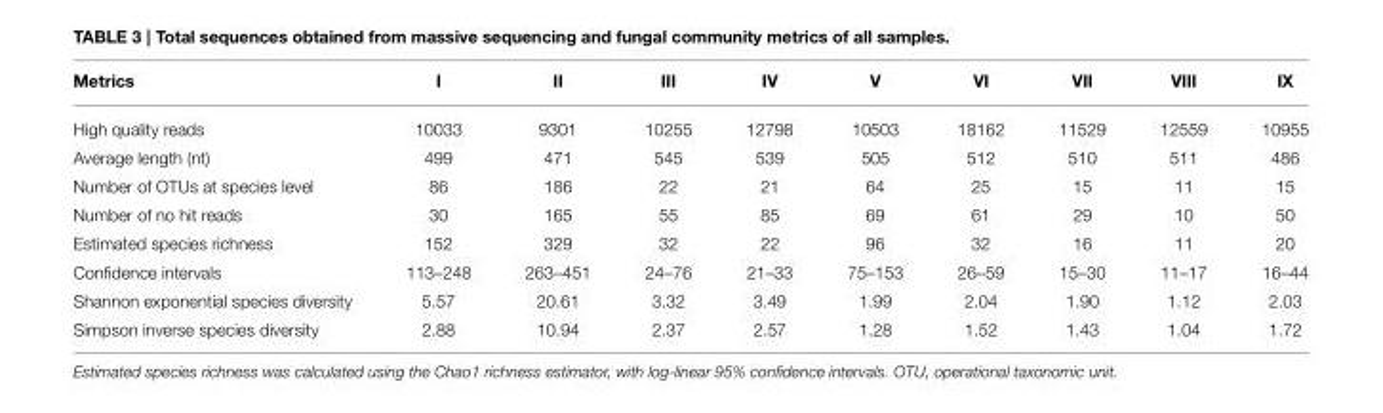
<table><thead><tr><td>Metrics</td><td>I</td><td>II</td><td>III</td><td>IV</td><td>V</td><td>VI</td><td>VII</td><td>VIII</td><td>IX</td></tr></thead><tbody><tr><td>High quality reads</td><td>10033</td><td>9301</td><td>10255</td><td>12798</td><td>10503</td><td>18162</td><td>11529</td><td>12559</td><td>10955</td></tr><tr><td>Average length (nt)</td><td>499</td><td>471</td><td>545</td><td>539</td><td>505</td><td>512</td><td>510</td><td>511</td><td>486</td></tr><tr><td>Number of OTUs at species level</td><td>86</td><td>186</td><td>22</td><td>21</td><td>64</td><td>25</td><td>15</td><td>11</td><td>15</td></tr><tr><td>Number of no hit reads</td><td>30</td><td>165</td><td>55</td><td>85</td><td>69</td><td>61</td><td>29</td><td>10</td><td>50</td></tr><tr><td>Estimated species richness</td><td>152</td><td>329</td><td>32</td><td>22</td><td>96</td><td>32</td><td>16</td><td>11</td><td>20</td></tr><tr><td>Confidence intervals</td><td>113–248</td><td>263–451</td><td>24–76</td><td>21–33</td><td>75–153</td><td>26–59</td><td>15–30</td><td>11–17</td><td>16–44</td></tr><tr><td>Shannon exponential species diversity</td><td>5.57</td><td>20.61</td><td>3.32</td><td>3.49</td><td>1.99</td><td>2.04</td><td>1.90</td><td>1.12</td><td>2.03</td></tr><tr><td>Simpson inverse species diversity</td><td>2.88</td><td>10.94</td><td>2.37</td><td>2.57</td><td>1.28</td><td>1.52</td><td>1.43</td><td>1.04</td><td>1.72</td></tr></tbody></table>